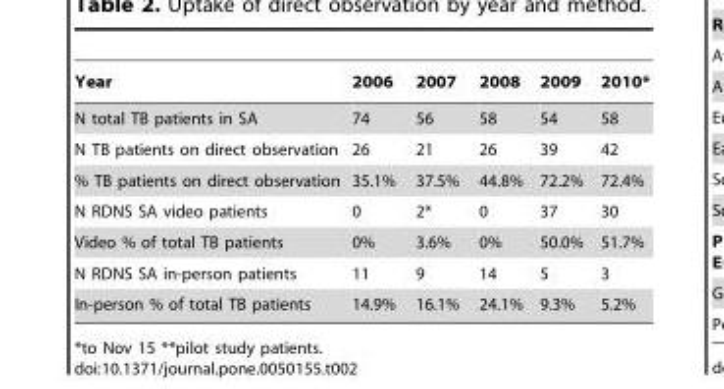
<table><thead><tr><td>Year</td><td>2006</td><td>2007</td><td>2008</td><td>2009</td><td>2010*</td></tr></thead><tbody><tr><td>N total TB patients in SA</td><td>74</td><td>56</td><td>58</td><td>54</td><td>58</td></tr><tr><td>N TB patients on direct observation</td><td>26</td><td>21</td><td>26</td><td>39</td><td>42</td></tr><tr><td>% TB patients on direct observation</td><td>35.1%</td><td>37.5%</td><td>44.8%</td><td>72.2%</td><td>72.4%</td></tr><tr><td>N RDNS SA video patients</td><td>0</td><td>2*</td><td>0</td><td>37</td><td>30</td></tr><tr><td>Video % of total TB patients</td><td>0%</td><td>3.6%</td><td>0%</td><td>50.0%</td><td>51.7%</td></tr><tr><td>N RDNS SA in-person patients</td><td>11</td><td>9</td><td>14</td><td>5</td><td>3</td></tr><tr><td>In-person % of total TB patients</td><td>14.9%</td><td>16.1%</td><td>24.1%</td><td>9.3%</td><td>5.2%</td></tr></tbody></table>